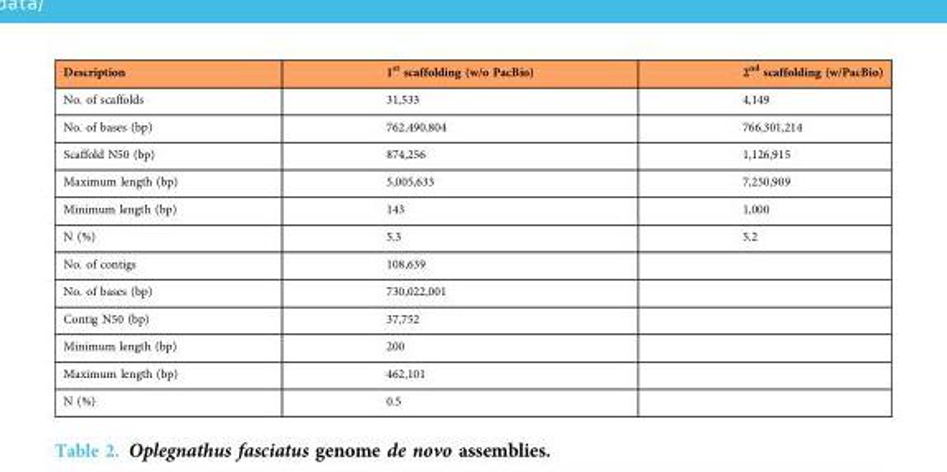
<table><thead><tr><td>Description</td><td>1<sup>st</sup> scaffolding (w/o PacBio)</td><td>2<sup>nd</sup> scaffolding (w/PacBio)</td></tr></thead><tbody><tr><td>No. of scaffolds</td><td>31,533</td><td>4,149</td></tr><tr><td>No. of bases (bp)</td><td>762,490,804</td><td>766,301,214</td></tr><tr><td>Scaffold N50 (bp)</td><td>874,256</td><td>1,126,915</td></tr><tr><td>Maximum length (bp)</td><td>5,005,633</td><td>7,250,909</td></tr><tr><td>Minimum length (bp)</td><td>143</td><td>1,000</td></tr><tr><td>N (%)</td><td>5.3</td><td>5.2</td></tr><tr><td>No. of contigs</td><td>108,639</td><td></td></tr><tr><td>No. of bases (bp)</td><td>730,022,001</td><td></td></tr><tr><td>Contig N50 (bp)</td><td>37,752</td><td></td></tr><tr><td>Minimum length (bp)</td><td>200</td><td></td></tr><tr><td>Maximum length (bp)</td><td>462,101</td><td></td></tr><tr><td>N (%)</td><td>0.5</td><td></td></tr></tbody></table>